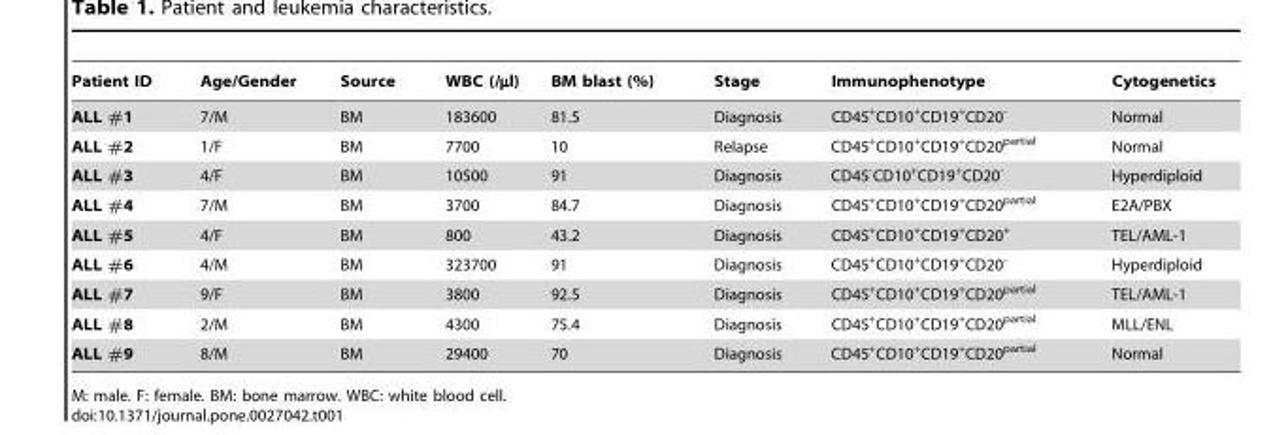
<table><thead><tr><td>Patient ID</td><td>Age/Gender</td><td>Source</td><td>WBC (/µl)</td><td>BM blast (%)</td><td>Stage</td><td>Immunophenotype</td><td>Cytogenetics</td></tr></thead><tbody><tr><td>ALL #1</td><td>7/M</td><td>BM</td><td>183600</td><td>81.5</td><td>Diagnosis</td><td>CD45<sup>+</sup>CD10<sup>+</sup>CD19<sup>+</sup>CD20<sup>-</sup></td><td>Normal</td></tr><tr><td>ALL #2</td><td>1/F</td><td>BM</td><td>7700</td><td>10</td><td>Relapse</td><td>CD45<sup>+</sup>CD10<sup>+</sup>CD19<sup>+</sup>CD20<sup>partial</sup></td><td>Normal</td></tr><tr><td>ALL #3</td><td>4/F</td><td>BM</td><td>10500</td><td>91</td><td>Diagnosis</td><td>CD45<sup>-</sup>CD10<sup>+</sup>CD19<sup>+</sup>CD20<sup>-</sup></td><td>Hyperdiploid</td></tr><tr><td>ALL #4</td><td>7/M</td><td>BM</td><td>3700</td><td>84.7</td><td>Diagnosis</td><td>CD45<sup>+</sup>CD10<sup>+</sup>CD19<sup>+</sup>CD20<sup>partial</sup></td><td>E2A/PBX</td></tr><tr><td>ALL #5</td><td>4/F</td><td>BM</td><td>800</td><td>43.2</td><td>Diagnosis</td><td>CD45<sup>+</sup>CD10<sup>+</sup>CD19<sup>+</sup>CD20<sup>+</sup></td><td>TEL/AML-1</td></tr><tr><td>ALL #6</td><td>4/M</td><td>BM</td><td>323700</td><td>91</td><td>Diagnosis</td><td>CD45<sup>+</sup>CD10<sup>+</sup>CD19<sup>+</sup>CD20<sup>-</sup></td><td>Hyperdiploid</td></tr><tr><td>ALL #7</td><td>9/F</td><td>BM</td><td>3800</td><td>92.5</td><td>Diagnosis</td><td>CD45<sup>+</sup>CD10<sup>+</sup>CD19<sup>+</sup>CD20<sup>partial</sup></td><td>TEL/AML-1</td></tr><tr><td>ALL #8</td><td>2/M</td><td>BM</td><td>4300</td><td>75.4</td><td>Diagnosis</td><td>CD45<sup>+</sup>CD10<sup>+</sup>CD19<sup>+</sup>CD20<sup>partial</sup></td><td>MLL/ENL</td></tr><tr><td>ALL #9</td><td>8/M</td><td>BM</td><td>29400</td><td>70</td><td>Diagnosis</td><td>CD45<sup>+</sup>CD10<sup>+</sup>CD19<sup>+</sup>CD20<sup>partial</sup></td><td>Normal</td></tr></tbody></table>